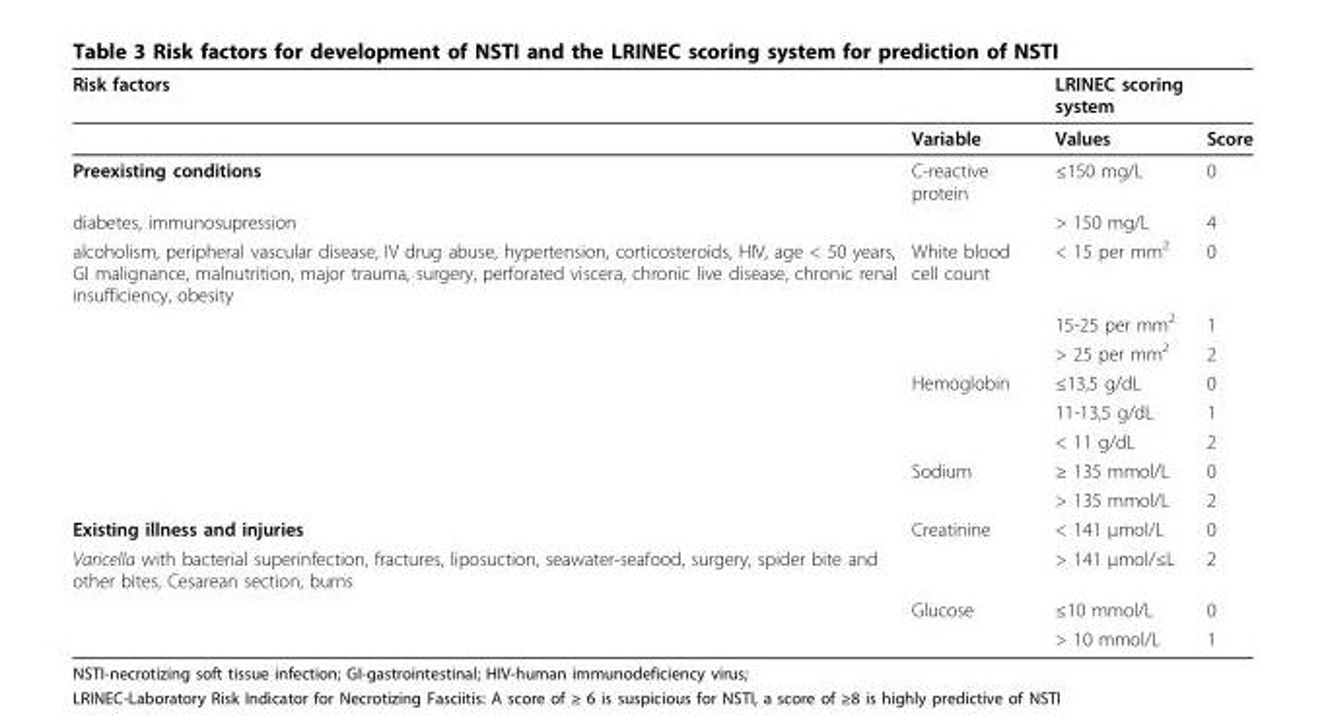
<table><thead><tr><td>Risk factors</td><td></td><td>LRINEC scoring system</td><td></td></tr></thead><tbody><tr><td></td><td>Variable</td><td>Values</td><td>Score</td></tr><tr><td>Preexisting conditions</td><td>C-reactive protein</td><td>≤150 mg/L</td><td>0</td></tr><tr><td>diabetes, immunosupression</td><td></td><td>&gt; 150 mg/L</td><td>4</td></tr><tr><td rowspan="8">alcoholism, peripheral vascular disease, IV drug abuse, hypertension, corticosteroids, HIV, age &lt; 50 years, GI malignance, malnutrition, major trauma, surgery, perforated viscera, chronic live disease, chronic renal insufficiency, obesity</td><td>White blood cell count</td><td>&lt; 15 per mm<sup>2</sup></td><td>0</td></tr><tr><td></td><td>15-25 per mm<sup>2</sup></td><td>1</td></tr><tr><td></td><td>&gt; 25 per mm<sup>2</sup></td><td>2</td></tr><tr><td>Hemoglobin</td><td>≤13,5 g/dL</td><td>0</td></tr><tr><td></td><td>11-13,5 g/dL</td><td>1</td></tr><tr><td></td><td>&lt; 11 g/dL</td><td>2</td></tr><tr><td>Sodium</td><td>≥ 135 mmol/L</td><td>0</td></tr><tr><td></td><td>&gt; 135 mmol/L</td><td>2</td></tr><tr><td>Existing illness and injuries</td><td>Creatinine</td><td>&lt; 141 μmol/L</td><td>0</td></tr><tr><td rowspan="3">Varicella with bacterial superinfection, fractures, liposuction, seawater-seafood, surgery, spider bite and other bites, Cesarean section, burns</td><td></td><td>&gt; 141 μmol/≤L</td><td>2</td></tr><tr><td>Glucose</td><td>≤10 mmol/L</td><td>0</td></tr><tr><td></td><td>&gt; 10 mmol/L</td><td>1</td></tr></tbody></table>